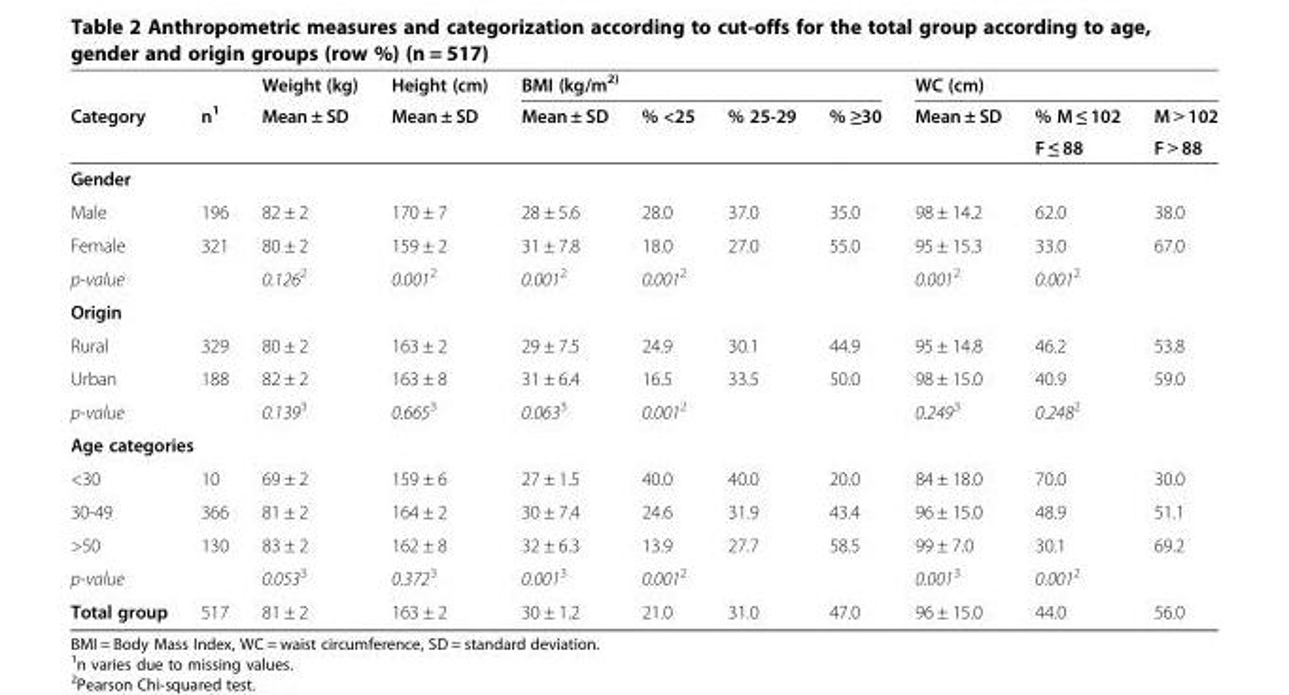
<table><thead><tr><td rowspan="3">Category</td><td rowspan="3">n<sup>1</sup></td><td rowspan="3">Weight (kg) Mean ± SD</td><td rowspan="3">Height (cm) Mean ± SD</td><td colspan="4">BMI (kg/m<sup>2)</sup></td><td colspan="3">WC (cm)</td></tr><tr><td rowspan="2">Mean ± SD</td><td rowspan="2">% &lt;25</td><td rowspan="2">% 25-29</td><td rowspan="2">% ≥30</td><td rowspan="2">Mean ± SD</td><td rowspan="2">% M ≤ 102 F ≤ 88</td><td rowspan="2">M &gt; 102 F &gt; 88</td></tr><tr></tr></thead><tbody><tr><td colspan="11">Gender</td></tr><tr><td>Male</td><td>196</td><td>82 ± 2</td><td>170 ± 7</td><td>28 ± 5.6</td><td>28.0</td><td>37.0</td><td>35.0</td><td>98 ± 14.2</td><td>62.0</td><td>38.0</td></tr><tr><td>Female</td><td>321</td><td>80 ± 2</td><td>159 ± 2</td><td>31 ± 7.8</td><td>18.0</td><td>27.0</td><td>55.0</td><td>95 ± 15.3</td><td>33.0</td><td>67.0</td></tr><tr><td>p-value</td><td></td><td>0.126<sup>2</sup></td><td>0.001<sup>2</sup></td><td>0.001<sup>2</sup></td><td colspan="3">0.001<sup>2</sup></td><td>0.001<sup>2</sup></td><td colspan="2">0.001<sup>2</sup></td></tr><tr><td colspan="11">Origin</td></tr><tr><td>Rural</td><td>329</td><td>80 ± 2</td><td>163 ± 2</td><td>29 ± 7.5</td><td>24.9</td><td>30.1</td><td>44.9</td><td>95 ± 14.8</td><td>46.2</td><td>53.8</td></tr><tr><td>Urban</td><td>188</td><td>82 ± 2</td><td>163 ± 8</td><td>31 ± 6.4</td><td>16.5</td><td>33.5</td><td>50.0</td><td>98 ± 15.0</td><td>40.9</td><td>59.0</td></tr><tr><td>p-value</td><td></td><td>0.139<sup>3</sup></td><td>0.665<sup>3</sup></td><td>0.063<sup>3</sup></td><td colspan="3">0.001<sup>2</sup></td><td>0.249<sup>3</sup></td><td colspan="2">0.248<sup>2</sup></td></tr><tr><td colspan="11">Age categories</td></tr><tr><td>&lt;30</td><td>10</td><td>69 ± 2</td><td>159 ± 6</td><td>27 ± 1.5</td><td>40.0</td><td>40.0</td><td>20.0</td><td>84 ± 18.0</td><td>70.0</td><td>30.0</td></tr><tr><td>30-49</td><td>366</td><td>81 ± 2</td><td>164 ± 2</td><td>30 ± 7.4</td><td>24.6</td><td>31.9</td><td>43.4</td><td>96 ± 15.0</td><td>48.9</td><td>51.1</td></tr><tr><td>&gt;50</td><td>130</td><td>83 ± 2</td><td>162 ± 8</td><td>32 ± 6.3</td><td>13.9</td><td>27.7</td><td>58.5</td><td>99 ± 7.0</td><td>30.1</td><td>69.2</td></tr><tr><td>p-value</td><td></td><td>0.053<sup>3</sup></td><td>0.372<sup>3</sup></td><td>0.001<sup>3</sup></td><td colspan="3">0.001<sup>2</sup></td><td>0.001<sup>3</sup></td><td colspan="2">0.001<sup>2</sup></td></tr><tr><td>Total group</td><td>517</td><td>81 ± 2</td><td>163 ± 2</td><td>30 ± 1.2</td><td>21.0</td><td>31.0</td><td>47.0</td><td>96 ± 15.0</td><td>44.0</td><td>56.0</td></tr></tbody></table>